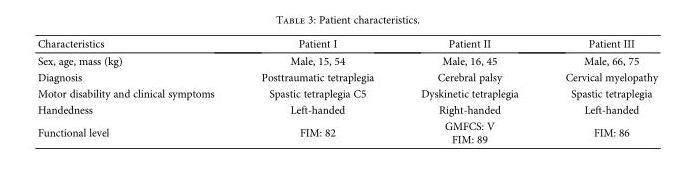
<table><thead><tr><td>Characteristics</td><td>Patient I</td><td>Patient II</td><td>Patient III</td></tr></thead><tbody><tr><td>Sex, age, mass (kg)</td><td>Male, 15, 54</td><td>Male, 16, 45</td><td>Male, 66, 75</td></tr><tr><td>Diagnosis</td><td>Posttraumatic tetraplegia</td><td>Cerebral palsy</td><td>Cervical myelopathy</td></tr><tr><td>Motor disability and clinical symptoms</td><td>Spastic tetraplegia C5</td><td>Dyskinetic tetraplegia</td><td>Spastic tetraplegia</td></tr><tr><td>Handedness</td><td>Left-handed</td><td>Right-handed</td><td>Left-handed</td></tr><tr><td>Functional level</td><td>FIM: 82</td><td>GMFCS: V FIM: 89</td><td>FIM: 86</td></tr></tbody></table>